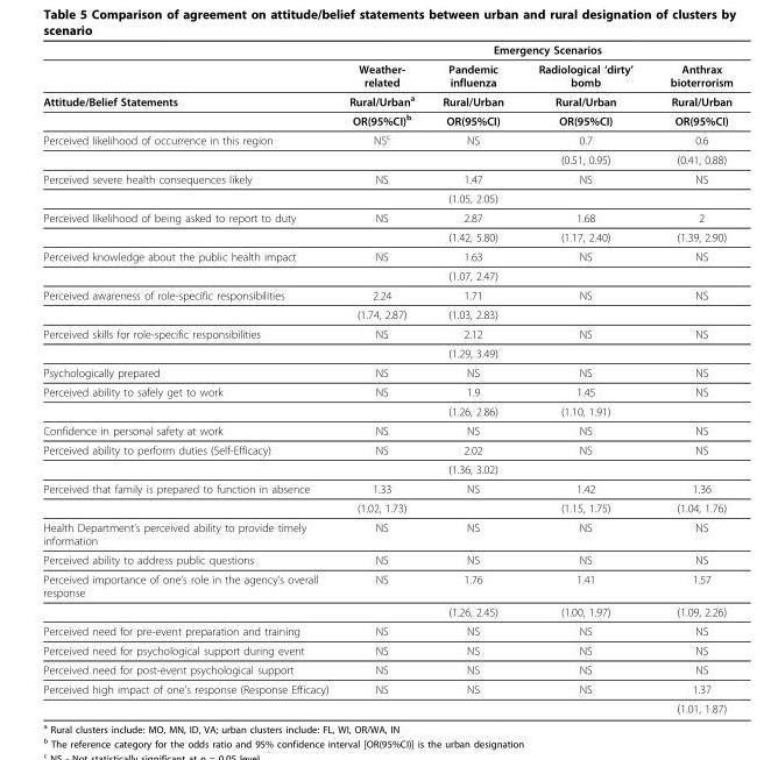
<table><thead><tr><td rowspan="2"></td><td colspan="4">Emergency Scenarios</td></tr><tr><td>Weather- related</td><td>Pandemic influenza</td><td>Radiological ‘dirty’ bomb</td><td>Anthrax bioterrorism</td></tr></thead><tbody><tr><td rowspan="2">Attitude/Belief Statements</td><td>Rural/Urbana</td><td>Rural/Urban</td><td>Rural/Urban</td><td>Rural/Urban</td></tr><tr><td>OR(95%CI)b</td><td>OR(95%CI)</td><td>OR(95%CI)</td><td>OR(95%CI)</td></tr><tr><td rowspan="2">Perceived likelihood of occurrence in this region</td><td>NSc</td><td>NS</td><td>0.7</td><td>0.6</td></tr><tr><td></td><td></td><td>(0.51, 0.95)</td><td>(0.41, 0.88)</td></tr><tr><td rowspan="2">Perceived severe health consequences likely</td><td>NS</td><td>1.47</td><td>NS</td><td>NS</td></tr><tr><td></td><td>(1.05, 2.05)</td><td></td><td></td></tr><tr><td rowspan="2">Perceived likelihood of being asked to report to duty</td><td>NS</td><td>2.87</td><td>1.68</td><td>2</td></tr><tr><td></td><td>(1.42, 5.80)</td><td>(1.17, 2.40)</td><td>(1.39, 2.90)</td></tr><tr><td rowspan="2">Perceived knowledge about the public health impact</td><td>NS</td><td>1.63</td><td>NS</td><td>NS</td></tr><tr><td></td><td>(1.07, 2.47)</td><td></td><td></td></tr><tr><td rowspan="2">Perceived awareness of role-specific responsibilities</td><td>2.24</td><td>1.71</td><td>NS</td><td>NS</td></tr><tr><td>(1.74, 2.87)</td><td>(1.03, 2.83)</td><td></td><td></td></tr><tr><td rowspan="2">Perceived skills for role-specific responsibilities</td><td>NS</td><td>2.12</td><td>NS</td><td>NS</td></tr><tr><td></td><td>(1.29, 3.49)</td><td></td><td></td></tr><tr><td>Psychologically prepared</td><td>NS</td><td>NS</td><td>NS</td><td>NS</td></tr><tr><td rowspan="2">Perceived ability to safely get to work</td><td>NS</td><td>1.9</td><td>1.45</td><td>NS</td></tr><tr><td></td><td>(1.26, 2.86)</td><td>(1.10, 1.91)</td><td></td></tr><tr><td>Confidence in personal safety at work</td><td>NS</td><td>NS</td><td>NS</td><td>NS</td></tr><tr><td rowspan="2">Perceived ability to perform duties (Self-Efficacy)</td><td>NS</td><td>2.02</td><td>NS</td><td>NS</td></tr><tr><td></td><td>(1.36, 3.02)</td><td></td><td></td></tr><tr><td rowspan="2">Perceived that family is prepared to function in absence</td><td>1.33</td><td>NS</td><td>1.42</td><td>1.36</td></tr><tr><td>(1.02, 1.73)</td><td></td><td>(1.15, 1.75)</td><td>(1.04, 1.76)</td></tr><tr><td>Health Department’s perceived ability to provide timely information</td><td>NS</td><td>NS</td><td>NS</td><td>NS</td></tr><tr><td>Perceived ability to address public questions</td><td>NS</td><td>NS</td><td>NS</td><td>NS</td></tr><tr><td rowspan="2">Perceived importance of one’s role in the agency’s overall response</td><td>NS</td><td>1.76</td><td>1.41</td><td>1.57</td></tr><tr><td></td><td>(1.26, 2.45)</td><td>(1.00, 1.97)</td><td>(1.09, 2.26)</td></tr><tr><td>Perceived need for pre-event preparation and training</td><td>NS</td><td>NS</td><td>NS</td><td>NS</td></tr><tr><td>Perceived need for psychological support during event</td><td>NS</td><td>NS</td><td>NS</td><td>NS</td></tr><tr><td>Perceived need for post-event psychological support</td><td>NS</td><td>NS</td><td>NS</td><td>NS</td></tr><tr><td rowspan="2">Perceived high impact of one’s response (Response Efficacy)</td><td>NS</td><td>NS</td><td>NS</td><td>1.37</td></tr><tr><td></td><td></td><td></td><td>(1.01, 1.87)</td></tr></tbody></table>